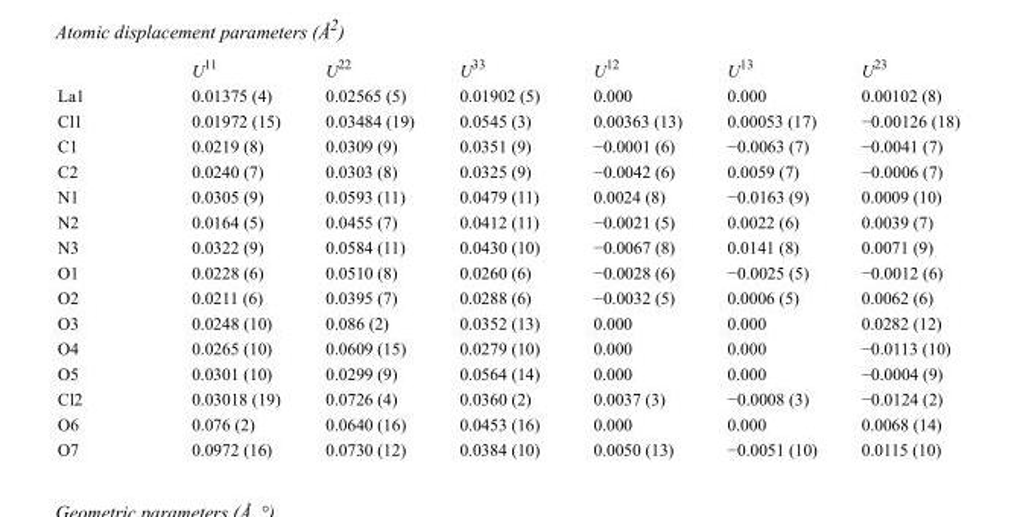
<table><thead><tr><td></td><td>U<sup>11</sup></td><td>U<sup>22</sup></td><td>U<sup>33</sup></td><td>U<sup>12</sup></td><td>U<sup>13</sup></td><td>U<sup>23</sup></td></tr></thead><tbody><tr><td>La1</td><td>0.01375 (4)</td><td>0.02565 (5)</td><td>0.01902 (5)</td><td>0.000</td><td>0.000</td><td>0.00102 (8)</td></tr><tr><td>Cl1</td><td>0.01972 (15)</td><td>0.03484 (19)</td><td>0.0545 (3)</td><td>0.00363 (13)</td><td>0.00053 (17)</td><td>−0.00126 (18)</td></tr><tr><td>C1</td><td>0.0219 (8)</td><td>0.0309 (9)</td><td>0.0351 (9)</td><td>−0.0001 (6)</td><td>−0.0063 (7)</td><td>−0.0041 (7)</td></tr><tr><td>C2</td><td>0.0240 (7)</td><td>0.0303 (8)</td><td>0.0325 (9)</td><td>−0.0042 (6)</td><td>0.0059 (7)</td><td>−0.0006 (7)</td></tr><tr><td>N1</td><td>0.0305 (9)</td><td>0.0593 (11)</td><td>0.0479 (11)</td><td>0.0024 (8)</td><td>−0.0163 (9)</td><td>0.0009 (10)</td></tr><tr><td>N2</td><td>0.0164 (5)</td><td>0.0455 (7)</td><td>0.0412 (11)</td><td>−0.0021 (5)</td><td>0.0022 (6)</td><td>0.0039 (7)</td></tr><tr><td>N3</td><td>0.0322 (9)</td><td>0.0584 (11)</td><td>0.0430 (10)</td><td>−0.0067 (8)</td><td>0.0141 (8)</td><td>0.0071 (9)</td></tr><tr><td>O1</td><td>0.0228 (6)</td><td>0.0510 (8)</td><td>0.0260 (6)</td><td>−0.0028 (6)</td><td>−0.0025 (5)</td><td>−0.0012 (6)</td></tr><tr><td>O2</td><td>0.0211 (6)</td><td>0.0395 (7)</td><td>0.0288 (6)</td><td>−0.0032 (5)</td><td>0.0006 (5)</td><td>0.0062 (6)</td></tr><tr><td>O3</td><td>0.0248 (10)</td><td>0.086 (2)</td><td>0.0352 (13)</td><td>0.000</td><td>0.000</td><td>0.0282 (12)</td></tr><tr><td>O4</td><td>0.0265 (10)</td><td>0.0609 (15)</td><td>0.0279 (10)</td><td>0.000</td><td>0.000</td><td>−0.0113 (10)</td></tr><tr><td>O5</td><td>0.0301 (10)</td><td>0.0299 (9)</td><td>0.0564 (14)</td><td>0.000</td><td>0.000</td><td>−0.0004 (9)</td></tr><tr><td>Cl2</td><td>0.03018 (19)</td><td>0.0726 (4)</td><td>0.0360 (2)</td><td>0.0037 (3)</td><td>−0.0008 (3)</td><td>−0.0124 (2)</td></tr><tr><td>O6</td><td>0.076 (2)</td><td>0.0640 (16)</td><td>0.0453 (16)</td><td>0.000</td><td>0.000</td><td>0.0068 (14)</td></tr><tr><td>O7</td><td>0.0972 (16)</td><td>0.0730 (12)</td><td>0.0384 (10)</td><td>0.0050 (13)</td><td>−0.0051 (10)</td><td>0.0115 (10)</td></tr></tbody></table>